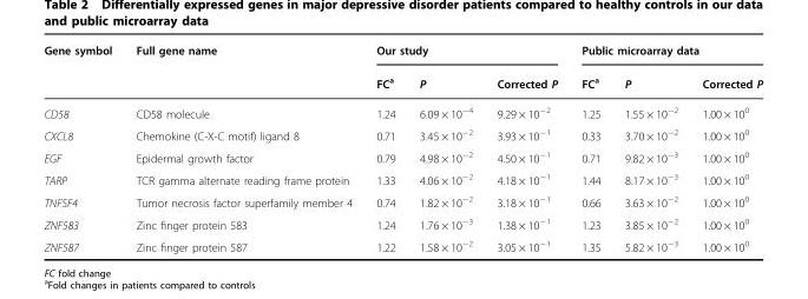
<table><thead><tr><td rowspan="2">Gene symbol</td><td rowspan="2">Full gene name</td><td colspan="3">Our study</td><td colspan="3">Public microarray data</td></tr><tr><td>FC<sup>a</sup></td><td>P</td><td>Corrected P</td><td>FC<sup>a</sup></td><td>P</td><td>Corrected P</td></tr></thead><tbody><tr><td>CD58</td><td>CD58 molecule</td><td>1.24</td><td>6.09 × 10<sup>−4</sup></td><td>9.29 × 10<sup>−2</sup></td><td>1.25</td><td>1.55 × 10<sup>−2</sup></td><td>1.00 × 10<sup>0</sup></td></tr><tr><td>CXCL8</td><td>Chemokine (C-X-C motif) ligand 8</td><td>0.71</td><td>3.45 × 10<sup>−2</sup></td><td>3.93 × 10<sup>−1</sup></td><td>0.33</td><td>3.70 × 10<sup>−2</sup></td><td>1.00 × 10<sup>0</sup></td></tr><tr><td>EGF</td><td>Epidermal growth factor</td><td>0.79</td><td>4.98 × 10<sup>−2</sup></td><td>4.50 × 10<sup>−1</sup></td><td>0.71</td><td>9.82 × 10<sup>−3</sup></td><td>1.00 × 10<sup>0</sup></td></tr><tr><td>TARP</td><td>TCR gamma alternate reading frame protein</td><td>1.33</td><td>4.06 × 10<sup>−2</sup></td><td>4.18 × 10<sup>−1</sup></td><td>1.44</td><td>8.17 × 10<sup>−3</sup></td><td>1.00 × 10<sup>0</sup></td></tr><tr><td>TNFSF4</td><td>Tumor necrosis factor superfamily member 4</td><td>0.74</td><td>1.82 × 10<sup>−2</sup></td><td>3.18 × 10<sup>−1</sup></td><td>0.66</td><td>3.63 × 10<sup>−2</sup></td><td>1.00 × 10<sup>0</sup></td></tr><tr><td>ZNF583</td><td>Zinc finger protein 583</td><td>1.24</td><td>1.76 × 10<sup>−3</sup></td><td>1.38 × 10<sup>−1</sup></td><td>1.23</td><td>3.85 × 10<sup>−2</sup></td><td>1.00 × 10<sup>0</sup></td></tr><tr><td>ZNF587</td><td>Zinc finger protein 587</td><td>1.22</td><td>1.58 × 10<sup>−2</sup></td><td>3.05 × 10<sup>−1</sup></td><td>1.35</td><td>5.82 × 10<sup>−3</sup></td><td>1.00 × 10<sup>0</sup></td></tr></tbody></table>